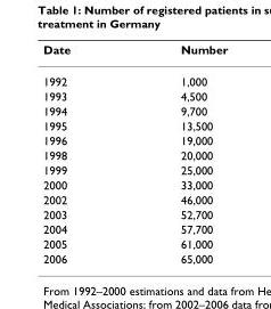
<table><thead><tr><td>Date</td><td>Number</td></tr></thead><tbody><tr><td>1992</td><td>1,000</td></tr><tr><td>1993</td><td>4,500</td></tr><tr><td>1994</td><td>9,700</td></tr><tr><td>1995</td><td>13,500</td></tr><tr><td>1996</td><td>19,000</td></tr><tr><td>1998</td><td>20,000</td></tr><tr><td>1999</td><td>25,000</td></tr><tr><td>2000</td><td>33,000</td></tr><tr><td>2002</td><td>46,000</td></tr><tr><td>2003</td><td>52,700</td></tr><tr><td>2004</td><td>57,700</td></tr><tr><td>2005</td><td>61,000</td></tr><tr><td>2006</td><td>65,000</td></tr></tbody></table>